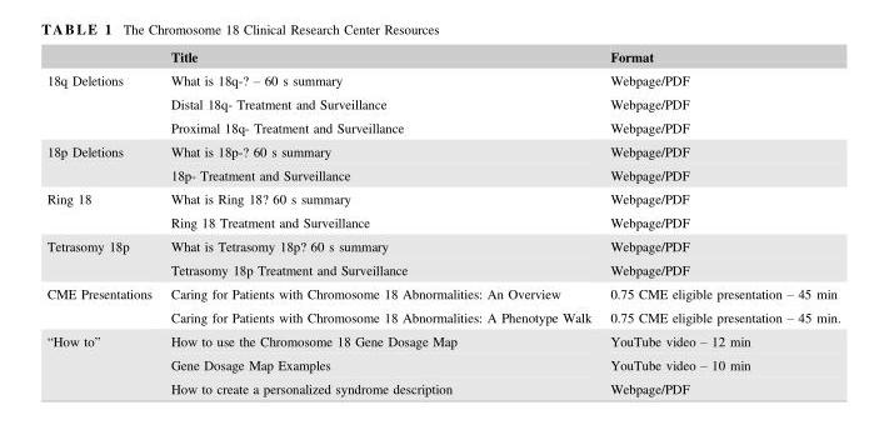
<table><thead><tr><td></td><td>Title</td><td>Format</td></tr></thead><tbody><tr><td rowspan="3">18q Deletions</td><td>What is 18q-? – 60 s summary</td><td>Webpage/PDF</td></tr><tr><td>Distal 18q- Treatment and Surveillance</td><td>Webpage/PDF</td></tr><tr><td>Proximal 18q- Treatment and Surveillance</td><td>Webpage/PDF</td></tr><tr><td rowspan="2">18p Deletions</td><td>What is 18p-? 60 s summary</td><td>Webpage/PDF</td></tr><tr><td>18p- Treatment and Surveillance</td><td>Webpage/PDF</td></tr><tr><td rowspan="2">Ring 18</td><td>What is Ring 18? 60 s summary</td><td>Webpage/PDF</td></tr><tr><td>Ring 18 Treatment and Surveillance</td><td>Webpage/PDF</td></tr><tr><td rowspan="2">Tetrasomy 18p</td><td>What is Tetrasomy 18p? 60 s summary</td><td>Webpage/PDF</td></tr><tr><td>Tetrasomy 18p Treatment and Surveillance</td><td>Webpage/PDF</td></tr><tr><td rowspan="2">CME Presentations</td><td>Caring for Patients with Chromosome 18 Abnormalities: An Overview</td><td>0.75 CME eligible presentation – 45 min</td></tr><tr><td>Caring for Patients with Chromosome 18 Abnormalities: A Phenotype Walk</td><td>0.75 CME eligible presentation – 45 min.</td></tr><tr><td rowspan="3">“How to”</td><td>How to use the Chromosome 18 Gene Dosage Map</td><td>YouTube video – 12 min</td></tr><tr><td>Gene Dosage Map Examples</td><td>YouTube video – 10 min</td></tr><tr><td>How to create a personalized syndrome description</td><td>Webpage/PDF</td></tr></tbody></table>